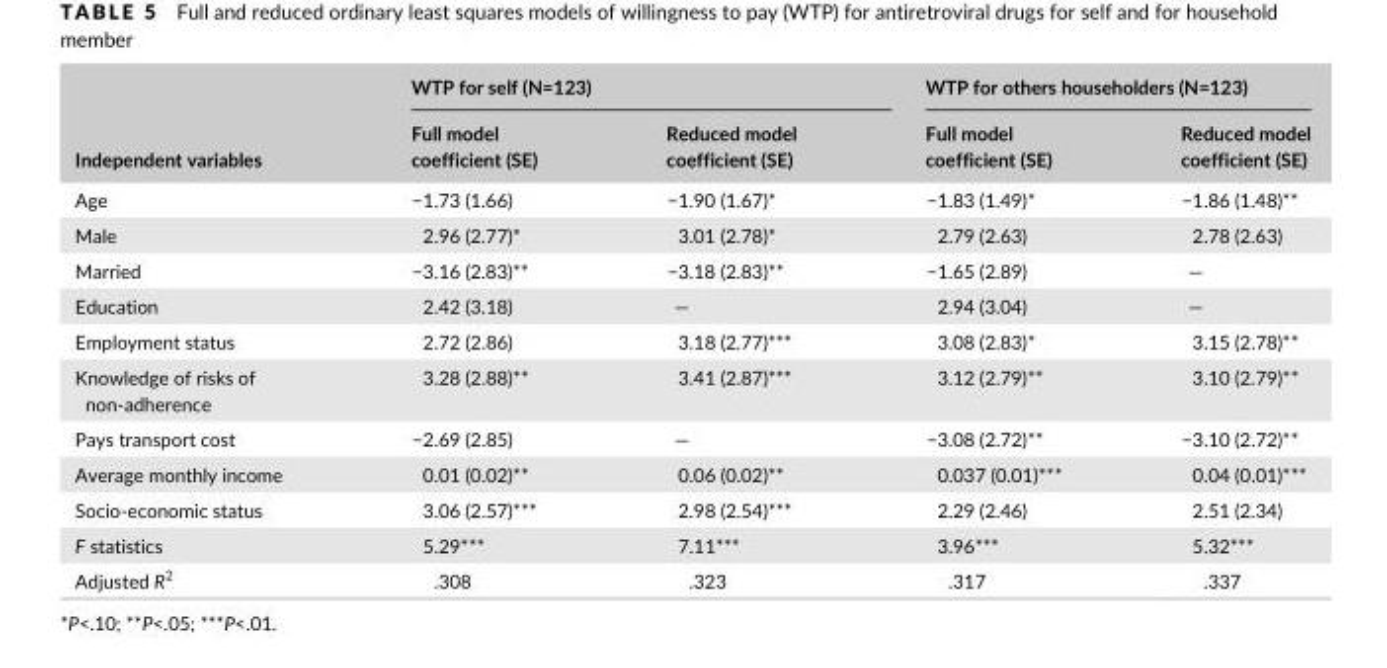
<table><thead><tr><td rowspan="2">Independent variables</td><td colspan="2">WTP for self (N=123)</td><td colspan="2">WTP for others householders (N=123)</td></tr><tr><td>Full model coefficient (SE)</td><td>Reduced model coefficient (SE)</td><td>Full model coefficient (SE)</td><td>Reduced model coefficient (SE)</td></tr></thead><tbody><tr><td>Age</td><td>−1.73 (1.66)</td><td>−1.90 (1.67)*</td><td>−1.83 (1.49)*</td><td>−1.86 (1.48)**</td></tr><tr><td>Male</td><td>2.96 (2.77)*</td><td>3.01 (2.78)*</td><td>2.79 (2.63)</td><td>2.78 (2.63)</td></tr><tr><td>Married</td><td>−3.16 (2.83)**</td><td>−3.18 (2.83)**</td><td>−1.65 (2.89)</td><td>—</td></tr><tr><td>Education</td><td>2.42 (3.18)</td><td>—</td><td>2.94 (3.04)</td><td>—</td></tr><tr><td>Employment status</td><td>2.72 (2.86)</td><td>3.18 (2.77)***</td><td>3.08 (2.83)*</td><td>3.15 (2.78)**</td></tr><tr><td>Knowledge of risks of non- adherence</td><td>3.28 (2.88)**</td><td>3.41 (2.87)***</td><td>3.12 (2.79)**</td><td>3.10 (2.79)**</td></tr><tr><td>Pays transport cost</td><td>−2.69 (2.85)</td><td>—</td><td>−3.08 (2.72)**</td><td>−3.10 (2.72)**</td></tr><tr><td>Average monthly income</td><td>0.01 (0.02)**</td><td>0.06 (0.02)**</td><td>0.037 (0.01)***</td><td>0.04 (0.01)***</td></tr><tr><td>Socio- economic status</td><td>3.06 (2.57)***</td><td>2.98 (2.54)***</td><td>2.29 (2.46)</td><td>2.51 (2.34)</td></tr><tr><td>F statistics</td><td>5.29***</td><td>7.11***</td><td>3.96***</td><td>5.32***</td></tr><tr><td>Adjusted R<sup>2</sup></td><td>.308</td><td>.323</td><td>.317</td><td>.337</td></tr></tbody></table>